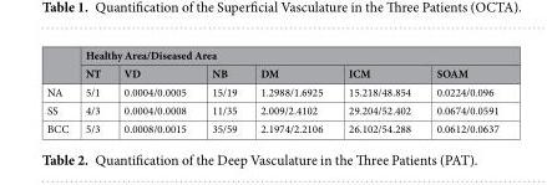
<table><thead><tr><td rowspan="2"></td><td colspan="6">Healthy Area/Diseased Area</td></tr><tr><td>NT</td><td>VD</td><td>NB</td><td>DM</td><td>ICM</td><td>SOAM</td></tr></thead><tbody><tr><td>NA</td><td>5/1</td><td>0.0004/0.0005</td><td>15/19</td><td>1.2988/1.6925</td><td>15.218/48.854</td><td>0.0224/0.096</td></tr><tr><td>SS</td><td>4/3</td><td>0.0004/0.0008</td><td>11/35</td><td>2.009/2.4102</td><td>29.204/52.402</td><td>0.0674/0.0591</td></tr><tr><td>BCC</td><td>5/3</td><td>0.0008/0.0015</td><td>35/59</td><td>2.1974/2.2106</td><td>26.102/54.288</td><td>0.0612/0.0637</td></tr></tbody></table>